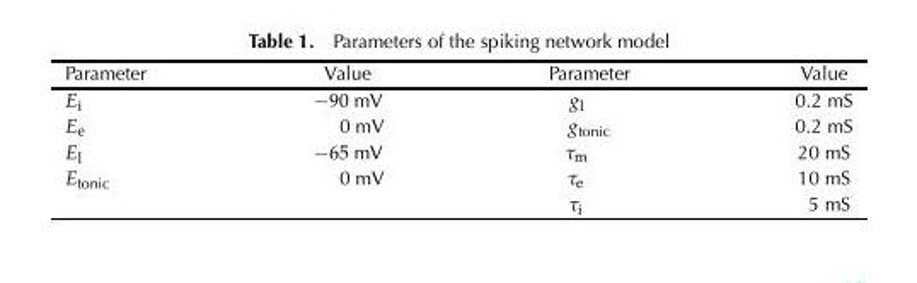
<table><thead><tr><td>Parameter</td><td>Value</td><td>Parameter</td><td>Value</td></tr></thead><tbody><tr><td>E<sub>i</sub></td><td>−90 mV</td><td>g<sub>l</sub></td><td>0.2 mS</td></tr><tr><td>E<sub>e</sub></td><td>0 mV</td><td>g<sub>tonic</sub></td><td>0.2 mS</td></tr><tr><td>E<sub>l</sub></td><td>−65 mV</td><td>τ<sub>m</sub></td><td>20 mS</td></tr><tr><td rowspan="2">E<sub>tonic</sub></td><td>0 mV</td><td>τ<sub>e</sub></td><td>10 mS</td></tr><tr><td></td><td>τ<sub>i</sub></td><td>5 mS</td></tr></tbody></table>